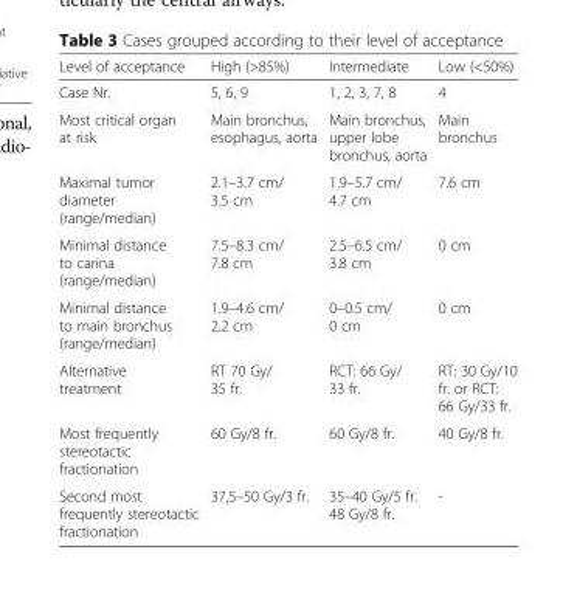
<table><thead><tr><td>Level of acceptance</td><td>High (&gt;85%)</td><td>Intermediate</td><td>Low (&lt;50%)</td></tr></thead><tbody><tr><td>Case Nr.</td><td>5, 6, 9</td><td>1, 2, 3, 7, 8</td><td>4</td></tr><tr><td>Most critical organ at risk</td><td>Main bronchus, esophagus, aorta</td><td>Main bronchus, upper lobe bronchus, aorta</td><td>Main bronchus</td></tr><tr><td>Maximal tumor diameter (range/median)</td><td>2.1–3.7 cm/ 3.5 cm</td><td>1.9–5.7 cm/ 4.7 cm</td><td>7.6 cm</td></tr><tr><td>Minimal distance to carina (range/median)</td><td>7.5–8.3 cm/ 7.8 cm</td><td>2.5–6.5 cm/ 3.8 cm</td><td>0 cm</td></tr><tr><td>Minimal distance to main bronchus (range/median)</td><td>1.9–4.6 cm/ 2.2 cm</td><td>0–0.5 cm/ 0 cm</td><td>0 cm</td></tr><tr><td>Alternative treatment</td><td>RT 70 Gy/ 35 fr.</td><td>RCT: 66 Gy/ 33 fr.</td><td>RT: 30 Gy/10 fr. or RCT: 66 Gy/33 fr.</td></tr><tr><td>Most frequently stereotactic fractionation</td><td>60 Gy/8 fr.</td><td>60 Gy/8 fr.</td><td>40 Gy/8 fr.</td></tr><tr><td>Second most frequently stereotactic fractionation</td><td>37,5–50 Gy/3 fr.</td><td>35–40 Gy/5 fr. 48 Gy/8 fr.</td><td>-</td></tr></tbody></table>